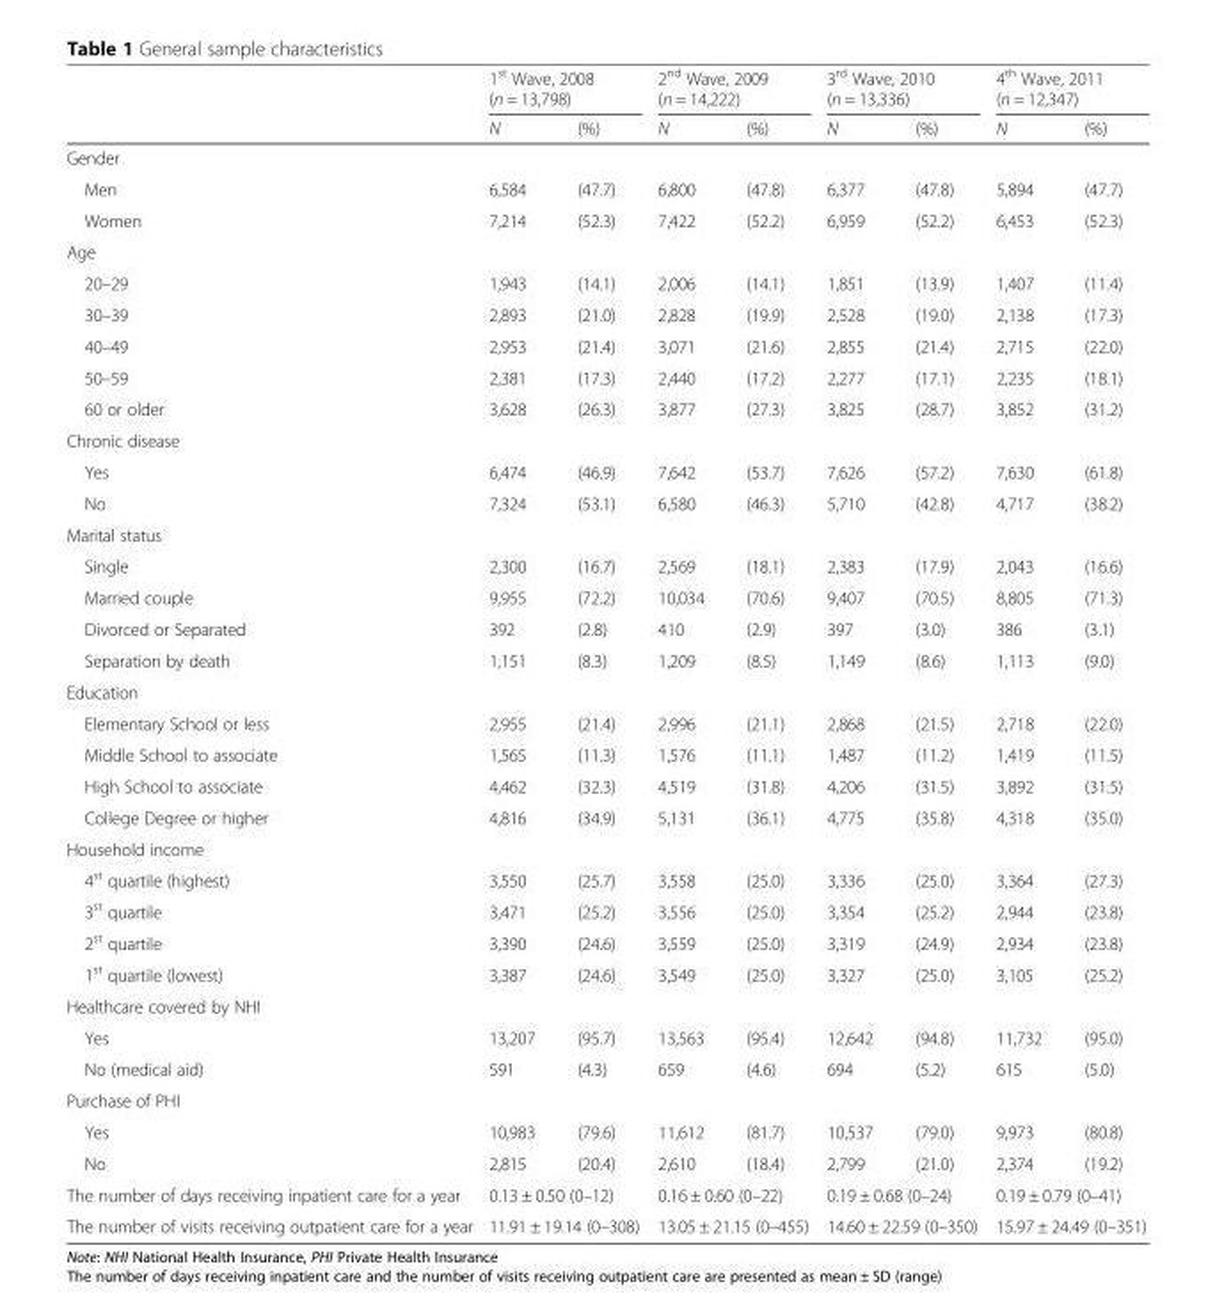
<table><thead><tr><td rowspan="2"></td><td colspan="2">1<sup>st</sup> Wave, 2008 (n = 13,798)</td><td colspan="2">2<sup>nd</sup> Wave, 2009 (n = 14,222)</td><td colspan="2">3<sup>rd</sup> Wave, 2010 (n = 13,336)</td><td colspan="2">4<sup>th</sup> Wave, 2011 (n = 12,347)</td></tr><tr><td>N</td><td>(%)</td><td>N</td><td>(%)</td><td>N</td><td>(%)</td><td>N</td><td>(%)</td></tr></thead><tbody><tr><td colspan="9">Gender</td></tr><tr><td>Men</td><td>6,584</td><td>(47.7)</td><td>6,800</td><td>(47.8)</td><td>6,377</td><td>(47.8)</td><td>5,894</td><td>(47.7)</td></tr><tr><td>Women</td><td>7,214</td><td>(52.3)</td><td>7,422</td><td>(52.2)</td><td>6,959</td><td>(52.2)</td><td>6,453</td><td>(52.3)</td></tr><tr><td colspan="9">Age</td></tr><tr><td>20–29</td><td>1,943</td><td>(14.1)</td><td>2,006</td><td>(14.1)</td><td>1,851</td><td>(13.9)</td><td>1,407</td><td>(11.4)</td></tr><tr><td>30–39</td><td>2,893</td><td>(21.0)</td><td>2,828</td><td>(19.9)</td><td>2,528</td><td>(19.0)</td><td>2,138</td><td>(17.3)</td></tr><tr><td>40–49</td><td>2,953</td><td>(21.4)</td><td>3,071</td><td>(21.6)</td><td>2,855</td><td>(21.4)</td><td>2,715</td><td>(22.0)</td></tr><tr><td>50–59</td><td>2,381</td><td>(17.3)</td><td>2,440</td><td>(17.2)</td><td>2,277</td><td>(17.1)</td><td>2,235</td><td>(18.1)</td></tr><tr><td>60 or older</td><td>3,628</td><td>(26.3)</td><td>3,877</td><td>(27.3)</td><td>3,825</td><td>(28.7)</td><td>3,852</td><td>(31.2)</td></tr><tr><td colspan="9">Chronic disease</td></tr><tr><td>Yes</td><td>6,474</td><td>(46.9)</td><td>7,642</td><td>(53.7)</td><td>7,626</td><td>(57.2)</td><td>7,630</td><td>(61.8)</td></tr><tr><td>No</td><td>7,324</td><td>(53.1)</td><td>6,580</td><td>(46.3)</td><td>5,710</td><td>(42.8)</td><td>4,717</td><td>(38.2)</td></tr><tr><td colspan="9">Marital status</td></tr><tr><td>Single</td><td>2,300</td><td>(16.7)</td><td>2,569</td><td>(18.1)</td><td>2,383</td><td>(17.9)</td><td>2,043</td><td>(16.6)</td></tr><tr><td>Married couple</td><td>9,955</td><td>(72.2)</td><td>10,034</td><td>(70.6)</td><td>9,407</td><td>(70.5)</td><td>8,805</td><td>(71.3)</td></tr><tr><td>Divorced or Separated</td><td>392</td><td>(2.8)</td><td>410</td><td>(2.9)</td><td>397</td><td>(3.0)</td><td>386</td><td>(3.1)</td></tr><tr><td>Separation by death</td><td>1,151</td><td>(8.3)</td><td>1,209</td><td>(8.5)</td><td>1,149</td><td>(8.6)</td><td>1,113</td><td>(9.0)</td></tr><tr><td colspan="9">Education</td></tr><tr><td>Elementary School or less</td><td>2,955</td><td>(21.4)</td><td>2,996</td><td>(21.1)</td><td>2,868</td><td>(21.5)</td><td>2,718</td><td>(22.0)</td></tr><tr><td>Middle School to associate</td><td>1,565</td><td>(11.3)</td><td>1,576</td><td>(11.1)</td><td>1,487</td><td>(11.2)</td><td>1,419</td><td>(11.5)</td></tr><tr><td>High School to associate</td><td>4,462</td><td>(32.3)</td><td>4,519</td><td>(31.8)</td><td>4,206</td><td>(31.5)</td><td>3,892</td><td>(31.5)</td></tr><tr><td>College Degree or higher</td><td>4,816</td><td>(34.9)</td><td>5,131</td><td>(36.1)</td><td>4,775</td><td>(35.8)</td><td>4,318</td><td>(35.0)</td></tr><tr><td colspan="9">Household income</td></tr><tr><td>4<sup>st</sup> quartile (highest)</td><td>3,550</td><td>(25.7)</td><td>3,558</td><td>(25.0)</td><td>3,336</td><td>(25.0)</td><td>3,364</td><td>(27.3)</td></tr><tr><td>3<sup>st</sup> quartile</td><td>3,471</td><td>(25.2)</td><td>3,556</td><td>(25.0)</td><td>3,354</td><td>(25.2)</td><td>2,944</td><td>(23.8)</td></tr><tr><td>2<sup>st</sup> quartile</td><td>3,390</td><td>(24.6)</td><td>3,559</td><td>(25.0)</td><td>3,319</td><td>(24.9)</td><td>2,934</td><td>(23.8)</td></tr><tr><td>1<sup>st</sup> quartile (lowest)</td><td>3,387</td><td>(24.6)</td><td>3,549</td><td>(25.0)</td><td>3,327</td><td>(25.0)</td><td>3,105</td><td>(25.2)</td></tr><tr><td colspan="9">Healthcare covered by NHI</td></tr><tr><td>Yes</td><td>13,207</td><td>(95.7)</td><td>13,563</td><td>(95.4)</td><td>12,642</td><td>(94.8)</td><td>11,732</td><td>(95.0)</td></tr><tr><td>No (medical aid)</td><td>591</td><td>(4.3)</td><td>659</td><td>(4.6)</td><td>694</td><td>(5.2)</td><td>615</td><td>(5.0)</td></tr><tr><td colspan="9">Purchase of PHI</td></tr><tr><td>Yes</td><td>10,983</td><td>(79.6)</td><td>11,612</td><td>(81.7)</td><td>10,537</td><td>(79.0)</td><td>9,973</td><td>(80.8)</td></tr><tr><td>No</td><td>2,815</td><td>(20.4)</td><td>2,610</td><td>(18.4)</td><td>2,799</td><td>(21.0)</td><td>2,374</td><td>(19.2)</td></tr><tr><td>The number of days receiving inpatient care for a year</td><td colspan="2">0.13 ± 0.50 (0–12)</td><td colspan="2">0.16 ± 0.60 (0–22)</td><td colspan="2">0.19 ± 0.68 (0–24)</td><td colspan="2">0.19 ± 0.79 (0–41)</td></tr><tr><td>The number of visits receiving outpatient care for a year</td><td colspan="2">11.91 ± 19.14 (0–308)</td><td colspan="2">13.05 ± 21.15 (0–455)</td><td colspan="2">14.60 ± 22.59 (0–350)</td><td colspan="2">15.97 ± 24.49 (0–351)</td></tr></tbody></table>